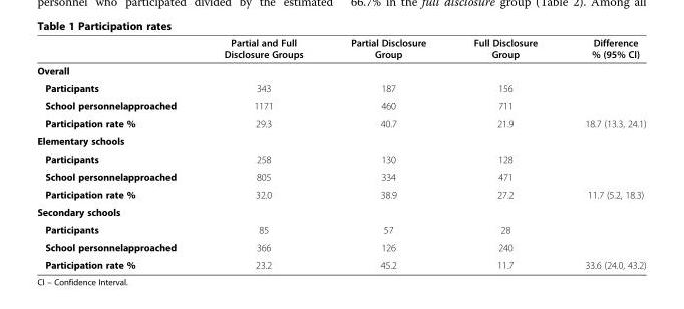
<table><thead><tr><td></td><td>Partial and Full Disclosure Groups</td><td>Partial Disclosure Group</td><td>Full Disclosure Group</td><td>Difference % (95% CI)</td></tr></thead><tbody><tr><td colspan="5">Overall</td></tr><tr><td>Participants</td><td>343</td><td>187</td><td>156</td><td></td></tr><tr><td>School personnelapproached</td><td>1171</td><td>460</td><td>711</td><td></td></tr><tr><td>Participation rate %</td><td>29.3</td><td>40.7</td><td>21.9</td><td>18.7 (13.3, 24.1)</td></tr><tr><td colspan="5">Elementary schools</td></tr><tr><td>Participants</td><td>258</td><td>130</td><td>128</td><td></td></tr><tr><td>School personnelapproached</td><td>805</td><td>334</td><td>471</td><td></td></tr><tr><td>Participation rate %</td><td>32.0</td><td>38.9</td><td>27.2</td><td>11.7 (5.2, 18.3)</td></tr><tr><td colspan="5">Secondary schools</td></tr><tr><td>Participants</td><td>85</td><td>57</td><td>28</td><td></td></tr><tr><td>School personnelapproached</td><td>366</td><td>126</td><td>240</td><td></td></tr><tr><td>Participation rate %</td><td>23.2</td><td>45.2</td><td>11.7</td><td>33.6 (24.0, 43.2)</td></tr></tbody></table>